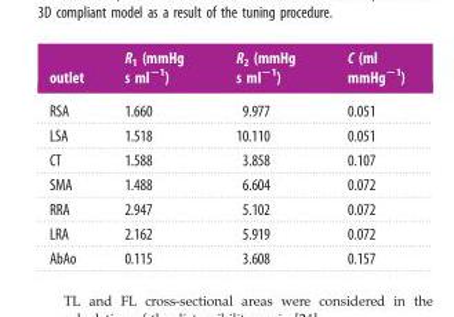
<table><thead><tr><td>outlet</td><td>R<sub>1</sub> (mmHg s ml<sup>−1</sup>)</td><td>R<sub>2</sub> (mmHg s ml<sup>−1</sup>)</td><td>C (ml mmHg<sup>−1</sup>)</td></tr></thead><tbody><tr><td>RSA</td><td>1.660</td><td>9.977</td><td>0.051</td></tr><tr><td>LSA</td><td>1.518</td><td>10.110</td><td>0.051</td></tr><tr><td>CT</td><td>1.588</td><td>3.858</td><td>0.107</td></tr><tr><td>SMA</td><td>1.488</td><td>6.604</td><td>0.072</td></tr><tr><td>RRA</td><td>2.947</td><td>5.102</td><td>0.072</td></tr><tr><td>LRA</td><td>2.162</td><td>5.919</td><td>0.072</td></tr><tr><td>AbAo</td><td>0.115</td><td>3.608</td><td>0.157</td></tr></tbody></table>